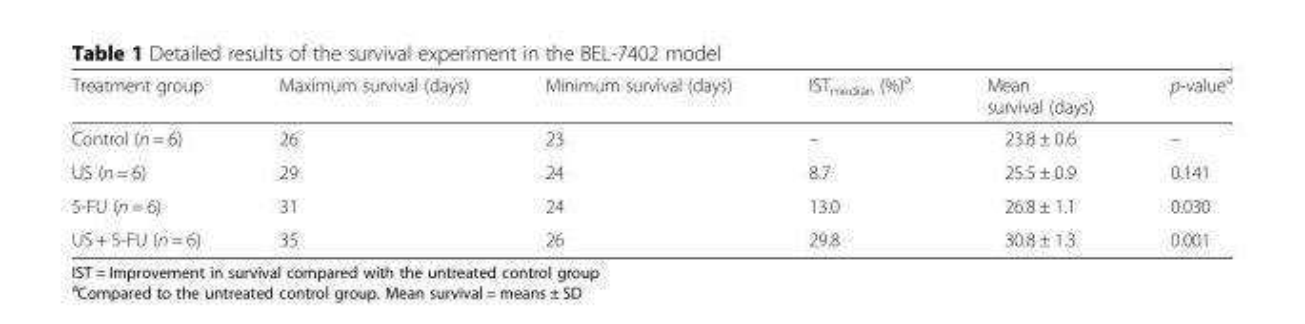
<table><thead><tr><td>Treatment group</td><td>Maximum survival (days)</td><td>Minimum survival (days)</td><td>IST<sub>median</sub> (%)<sup>a</sup></td><td>Mean survival (days)</td><td>p-value<sup>a</sup></td></tr></thead><tbody><tr><td>Control (n = 6)</td><td>26</td><td>23</td><td>–</td><td>23.8 ± 0.6</td><td>–</td></tr><tr><td>US (n = 6)</td><td>29</td><td>24</td><td>8.7</td><td>25.5 ± 0.9</td><td>0.141</td></tr><tr><td>5-FU (n = 6)</td><td>31</td><td>24</td><td>13.0</td><td>26.8 ± 1.1</td><td>0.030</td></tr><tr><td>US + 5-FU (n = 6)</td><td>35</td><td>26</td><td>29.8</td><td>30.8 ± 1.3</td><td>0.001</td></tr></tbody></table>